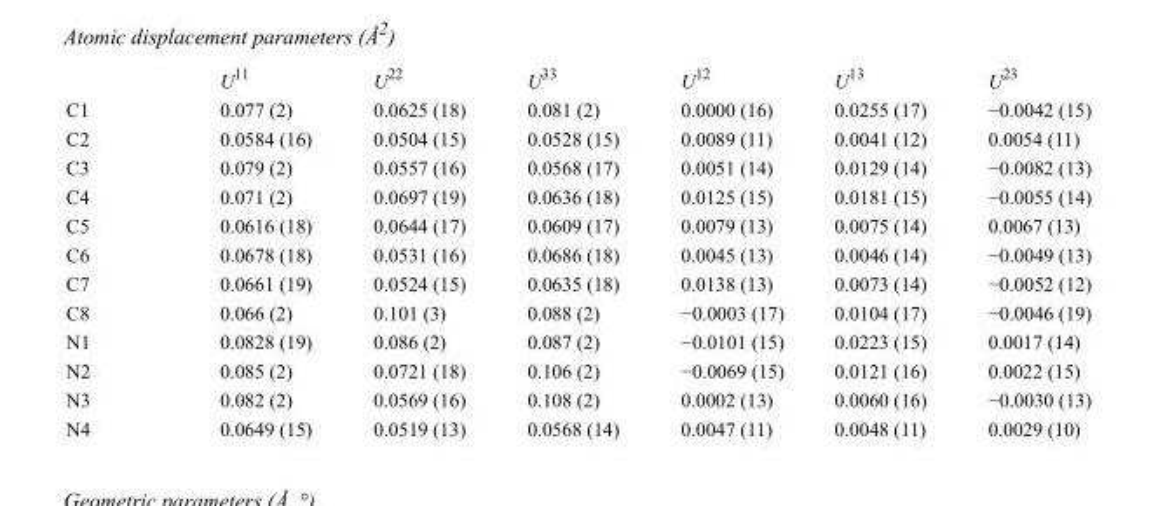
<table><thead><tr><td></td><td>U<sup>11</sup></td><td>U<sup>22</sup></td><td>U<sup>33</sup></td><td>U<sup>12</sup></td><td>U<sup>13</sup></td><td>U<sup>23</sup></td></tr></thead><tbody><tr><td>C1</td><td>0.077 (2)</td><td>0.0625 (18)</td><td>0.081 (2)</td><td>0.0000 (16)</td><td>0.0255 (17)</td><td>−0.0042 (15)</td></tr><tr><td>C2</td><td>0.0584 (16)</td><td>0.0504 (15)</td><td>0.0528 (15)</td><td>0.0089 (11)</td><td>0.0041 (12)</td><td>0.0054 (11)</td></tr><tr><td>C3</td><td>0.079 (2)</td><td>0.0557 (16)</td><td>0.0568 (17)</td><td>0.0051 (14)</td><td>0.0129 (14)</td><td>−0.0082 (13)</td></tr><tr><td>C4</td><td>0.071 (2)</td><td>0.0697 (19)</td><td>0.0636 (18)</td><td>0.0125 (15)</td><td>0.0181 (15)</td><td>−0.0055 (14)</td></tr><tr><td>C5</td><td>0.0616 (18)</td><td>0.0644 (17)</td><td>0.0609 (17)</td><td>0.0079 (13)</td><td>0.0075 (14)</td><td>0.0067 (13)</td></tr><tr><td>C6</td><td>0.0678 (18)</td><td>0.0531 (16)</td><td>0.0686 (18)</td><td>0.0045 (13)</td><td>0.0046 (14)</td><td>−0.0049 (13)</td></tr><tr><td>C7</td><td>0.0661 (19)</td><td>0.0524 (15)</td><td>0.0635 (18)</td><td>0.0138 (13)</td><td>0.0073 (14)</td><td>−0.0052 (12)</td></tr><tr><td>C8</td><td>0.066 (2)</td><td>0.101 (3)</td><td>0.088 (2)</td><td>−0.0003 (17)</td><td>0.0104 (17)</td><td>−0.0046 (19)</td></tr><tr><td>N1</td><td>0.0828 (19)</td><td>0.086 (2)</td><td>0.087 (2)</td><td>−0.0101 (15)</td><td>0.0223 (15)</td><td>0.0017 (14)</td></tr><tr><td>N2</td><td>0.085 (2)</td><td>0.0721 (18)</td><td>0.106 (2)</td><td>−0.0069 (15)</td><td>0.0121 (16)</td><td>0.0022 (15)</td></tr><tr><td>N3</td><td>0.082 (2)</td><td>0.0569 (16)</td><td>0.108 (2)</td><td>0.0002 (13)</td><td>0.0060 (16)</td><td>−0.0030 (13)</td></tr><tr><td>N4</td><td>0.0649 (15)</td><td>0.0519 (13)</td><td>0.0568 (14)</td><td>0.0047 (11)</td><td>0.0048 (11)</td><td>0.0029 (10)</td></tr></tbody></table>